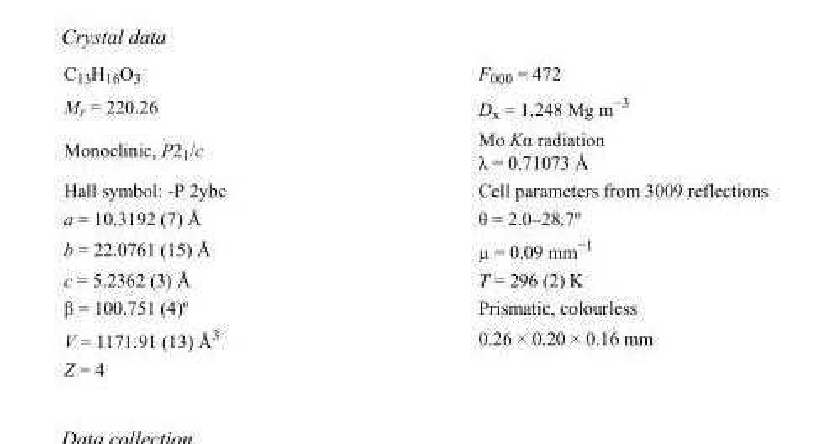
<table><tbody><tr><td>C<sub>13</sub>H<sub>16</sub>O<sub>3</sub></td><td>F<sub>000</sub> = 472</td></tr><tr><td>M<sub>r</sub> = 220.26</td><td>D<sub>x</sub> = 1.248 Mg m<sup>−3</sup></td></tr><tr><td>Monoclinic, P2<sub>1</sub>/c</td><td>Mo Kα radiation λ = 0.71073 Å</td></tr><tr><td>Hall symbol: -P 2ybc</td><td>Cell parameters from 3009 reflections</td></tr><tr><td>a = 10.3192 (7) Å</td><td>θ = 2.0–28.7º</td></tr><tr><td>b = 22.0761 (15) Å</td><td>µ = 0.09 mm<sup>−1</sup></td></tr><tr><td>c = 5.2362 (3) Å</td><td>T = 296 (2) K</td></tr><tr><td>β = 100.751 (4)º</td><td>Prismatic, colourless</td></tr><tr><td>V = 1171.91 (13) Å<sup>3</sup></td><td>0.26 × 0.20 × 0.16 mm</td></tr><tr><td>Z = 4</td><td></td></tr></tbody></table>